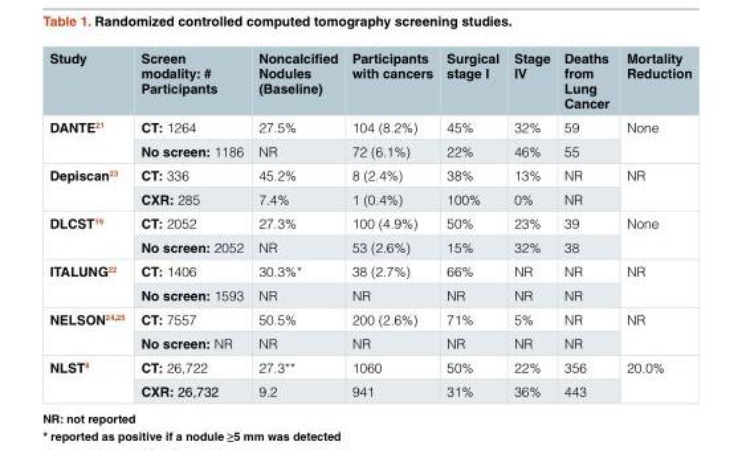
<table><thead><tr><td>Study</td><td>Screen modality: # Participants</td><td>Noncalcified Nodules (Baseline)</td><td>Participants with cancers</td><td>Surgical stage I</td><td>Stage IV</td><td>Deaths from Lung Cancer</td><td>Mortality Reduction</td></tr></thead><tbody><tr><td rowspan="2">DANTE<sup>21</sup></td><td>CT: 1264</td><td>27.5%</td><td>104 (8.2%)</td><td>45%</td><td>32%</td><td>59</td><td rowspan="2">None</td></tr><tr><td>No screen: 1186</td><td>NR</td><td>72 (6.1%)</td><td>22%</td><td>46%</td><td>55</td></tr><tr><td rowspan="2">Depiscan<sup>23</sup></td><td>CT: 336</td><td>45.2%</td><td>8 (2.4%)</td><td>38%</td><td>13%</td><td>NR</td><td rowspan="2">NR</td></tr><tr><td>CXR: 285</td><td>7.4%</td><td>1 (0.4%)</td><td>100%</td><td>0%</td><td>NR</td></tr><tr><td rowspan="2">DLCST<sup>19</sup></td><td>CT: 2052</td><td>27.3%</td><td>100 (4.9%)</td><td>50%</td><td>23%</td><td>39</td><td rowspan="2">None</td></tr><tr><td>No screen: 2052</td><td>NR</td><td>53 (2.6%)</td><td>15%</td><td>32%</td><td>38</td></tr><tr><td rowspan="2">ITALUNG<sup>22</sup></td><td>CT: 1406</td><td>30.3%*</td><td>38 (2.7%)</td><td>66%</td><td>NR</td><td>NR</td><td rowspan="2">NR</td></tr><tr><td>No screen: 1593</td><td>NR</td><td>NR</td><td>NR</td><td>NR</td><td>NR</td></tr><tr><td rowspan="2">NELSON<sup>24,25</sup></td><td>CT: 7557</td><td>50.5%</td><td>200 (2.6%)</td><td>71%</td><td>5%</td><td>NR</td><td rowspan="2">NR</td></tr><tr><td>No screen: NR</td><td>NR</td><td>NR</td><td>NR</td><td>NR</td><td>NR</td></tr><tr><td rowspan="2">NLST<sup>8</sup></td><td>CT: 26,722</td><td>27.3**</td><td>1060</td><td>50%</td><td>22%</td><td>356</td><td rowspan="2">20.0%</td></tr><tr><td>CXR: 26,732</td><td>9.2</td><td>941</td><td>31%</td><td>36%</td><td>443</td></tr></tbody></table>